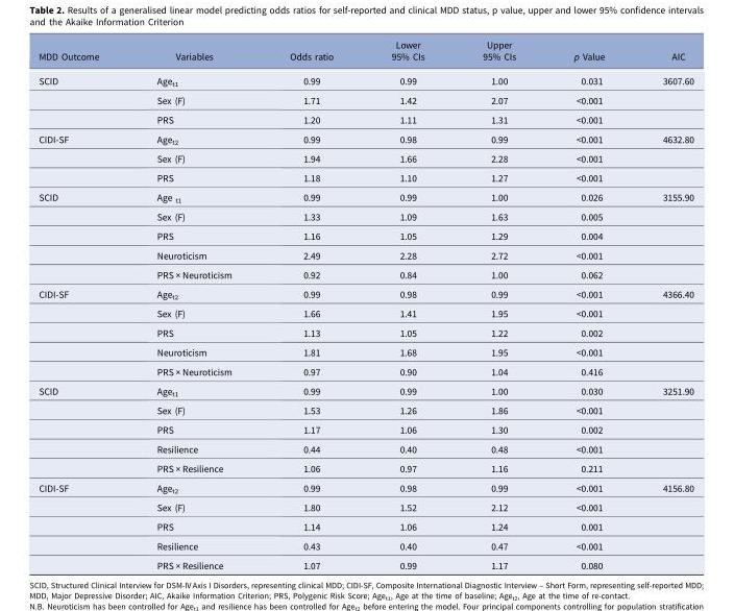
<table><thead><tr><td>MDD Outcome</td><td>Variables</td><td>Odds ratio</td><td>Lower 95% CIs</td><td>Upper 95% CIs</td><td>p Value</td><td>AIC</td></tr></thead><tbody><tr><td rowspan="3">SCID</td><td>Age<sub>t1</sub></td><td>0.99</td><td>0.99</td><td>1.00</td><td>0.031</td><td>3607.60</td></tr><tr><td>Sex (F)</td><td>1.71</td><td>1.42</td><td>2.07</td><td>&lt;0.001</td><td></td></tr><tr><td>PRS</td><td>1.20</td><td>1.11</td><td>1.31</td><td>&lt;0.001</td><td></td></tr><tr><td rowspan="3">CIDI-SF</td><td>Age<sub>t2</sub></td><td>0.99</td><td>0.98</td><td>0.99</td><td>&lt;0.001</td><td>4632.80</td></tr><tr><td>Sex (F)</td><td>1.94</td><td>1.66</td><td>2.28</td><td>&lt;0.001</td><td></td></tr><tr><td>PRS</td><td>1.18</td><td>1.10</td><td>1.27</td><td>&lt;0.001</td><td></td></tr><tr><td rowspan="5">SCID</td><td>Age <sub>t1</sub></td><td>0.99</td><td>0.99</td><td>1.00</td><td>0.026</td><td>3155.90</td></tr><tr><td>Sex (F)</td><td>1.33</td><td>1.09</td><td>1.63</td><td>0.005</td><td></td></tr><tr><td>PRS</td><td>1.16</td><td>1.05</td><td>1.29</td><td>0.004</td><td></td></tr><tr><td>Neuroticism</td><td>2.49</td><td>2.28</td><td>2.72</td><td>&lt;0.001</td><td></td></tr><tr><td>PRS × Neuroticism</td><td>0.92</td><td>0.84</td><td>1.00</td><td>0.062</td><td></td></tr><tr><td rowspan="5">CIDI-SF</td><td>Age<sub>t2</sub></td><td>0.99</td><td>0.98</td><td>0.99</td><td>&lt;0.001</td><td>4366.40</td></tr><tr><td>Sex (F)</td><td>1.66</td><td>1.41</td><td>1.95</td><td>&lt;0.001</td><td></td></tr><tr><td>PRS</td><td>1.13</td><td>1.05</td><td>1.22</td><td>0.002</td><td></td></tr><tr><td>Neuroticism</td><td>1.81</td><td>1.68</td><td>1.95</td><td>&lt;0.001</td><td></td></tr><tr><td>PRS × Neuroticism</td><td>0.97</td><td>0.90</td><td>1.04</td><td>0.416</td><td></td></tr><tr><td rowspan="5">SCID</td><td>Age<sub>t1</sub></td><td>0.99</td><td>0.99</td><td>1.00</td><td>0.030</td><td>3251.90</td></tr><tr><td>Sex (F)</td><td>1.53</td><td>1.26</td><td>1.86</td><td>&lt;0.001</td><td></td></tr><tr><td>PRS</td><td>1.17</td><td>1.06</td><td>1.30</td><td>0.002</td><td></td></tr><tr><td>Resilience</td><td>0.44</td><td>0.40</td><td>0.48</td><td>&lt;0.001</td><td></td></tr><tr><td>PRS × Resilience</td><td>1.06</td><td>0.97</td><td>1.16</td><td>0.211</td><td></td></tr><tr><td rowspan="5">CIDI-SF</td><td>Age<sub>t2</sub></td><td>0.99</td><td>0.98</td><td>0.99</td><td>&lt;0.001</td><td>4156.80</td></tr><tr><td>Sex (F)</td><td>1.80</td><td>1.52</td><td>2.12</td><td>&lt;0.001</td><td></td></tr><tr><td>PRS</td><td>1.14</td><td>1.06</td><td>1.24</td><td>0.001</td><td></td></tr><tr><td>Resilience</td><td>0.43</td><td>0.40</td><td>0.47</td><td>&lt;0.001</td><td></td></tr><tr><td>PRS × Resilience</td><td>1.07</td><td>0.99</td><td>1.17</td><td>0.080</td><td></td></tr></tbody></table>